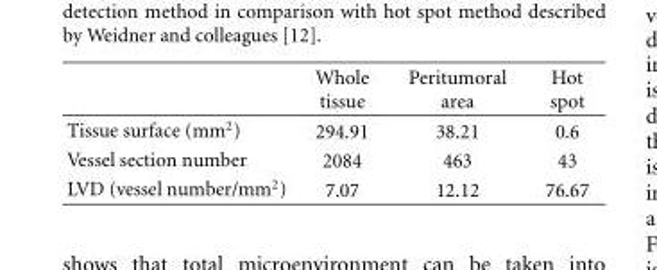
<table><thead><tr><td></td><td>Whole tissue</td><td>Peritumoral area</td><td>Hot spot</td></tr></thead><tbody><tr><td>Tissue surface (mm<sup>2</sup>)</td><td>294.91</td><td>38.21</td><td>0.6</td></tr><tr><td>Vessel section number</td><td>2084</td><td>463</td><td>43</td></tr><tr><td>LVD (vessel number/mm<sup>2</sup>)</td><td>7.07</td><td>12.12</td><td>76.67</td></tr></tbody></table>